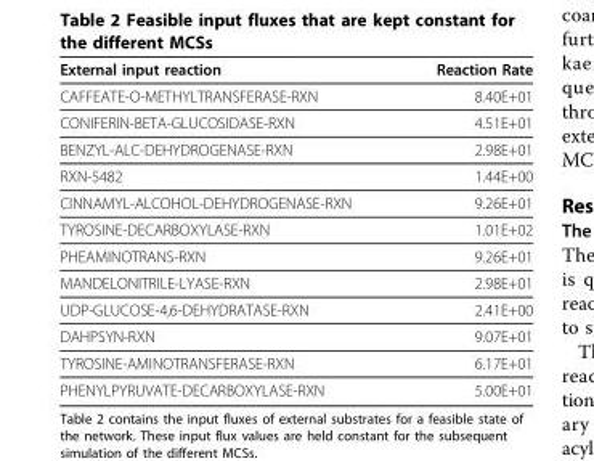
<table><thead><tr><td>External input reaction</td><td>Reaction Rate</td></tr></thead><tbody><tr><td>CAFFEATE-O-METHYLTRANSFERASE-RXN</td><td>8.40E+01</td></tr><tr><td>CONIFERIN-BETA-GLUCOSIDASE-RXN</td><td>4.51E+01</td></tr><tr><td>BENZYL-ALC-DEHYDROGENASE-RXN</td><td>2.98E+01</td></tr><tr><td>RXN-5482</td><td>1.44E+00</td></tr><tr><td>CINNAMYL-ALCOHOL-DEHYDROGENASE-RXN</td><td>9.26E+01</td></tr><tr><td>TYROSINE-DECARBOXYLASE-RXN</td><td>1.01E+02</td></tr><tr><td>PHEAMINOTRANS-RXN</td><td>9.26E+01</td></tr><tr><td>MANDELONITRILE-LYASE-RXN</td><td>2.98E+01</td></tr><tr><td>UDP-GLUCOSE-4,6-DEHYDRATASE-RXN</td><td>2.41E+00</td></tr><tr><td>DAHPSYN-RXN</td><td>9.07E+01</td></tr><tr><td>TYROSINE-AMINOTRANSFERASE-RXN</td><td>6.17E+01</td></tr><tr><td>PHENYLPYRUVATE-DECARBOXYLASE-RXN</td><td>5.00E+01</td></tr></tbody></table>